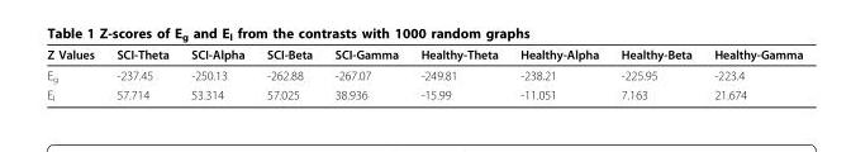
<table><thead><tr><td>Z Values</td><td>SCI-Theta</td><td>SCI-Alpha</td><td>SCI-Beta</td><td>SCI-Gamma</td><td>Healthy-Theta</td><td>Healthy-Alpha</td><td>Healthy-Beta</td><td>Healthy-Gamma</td></tr></thead><tbody><tr><td>E<sub>g</sub></td><td>-237.45</td><td>-250.13</td><td>-262.88</td><td>-267.07</td><td>-249.81</td><td>-238.21</td><td>-225.95</td><td>-223.4</td></tr><tr><td>E<sub>l</sub></td><td>57.714</td><td>53.314</td><td>57.025</td><td>38.936</td><td>-15.99</td><td>-11.051</td><td>7.163</td><td>21.674</td></tr></tbody></table>